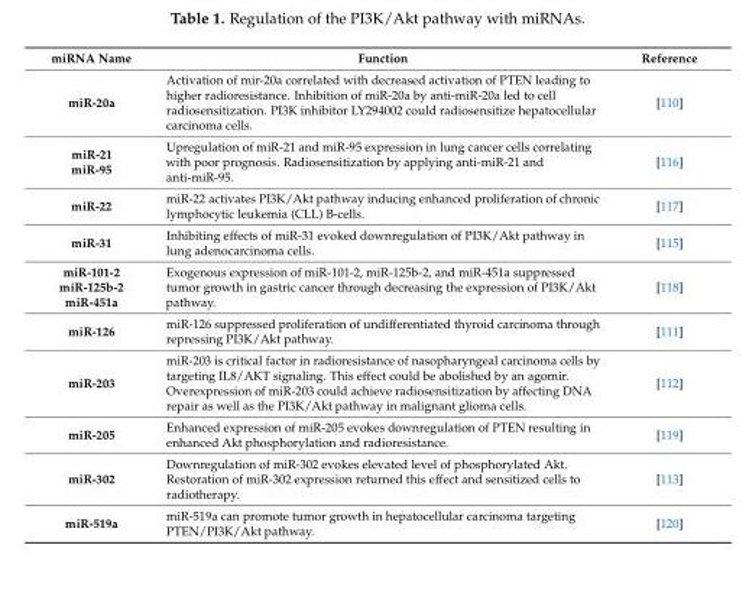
<table><thead><tr><td>miRNA Name</td><td>Function</td><td>Reference</td></tr></thead><tbody><tr><td>miR-20a</td><td>Activation of mir-20a correlated with decreased activation of PTEN leading to higher radioresistance. Inhibition of miR-20a by anti-miR-20a led to cell radiosensitization. PI3K inhibitor LY294002 could radiosensitize hepatocellular carcinoma cells.</td><td>[110]</td></tr><tr><td>miR-21 miR-95</td><td>Upregulation of miR-21 and miR-95 expression in lung cancer cells correlating with poor prognosis. Radiosensitization by applying anti-miR-21 and anti-miR-95.</td><td>[116]</td></tr><tr><td>miR-22</td><td>miR-22 activates PI3K/Akt pathway inducing enhanced proliferation of chronic lymphocytic leukemia (CLL) B-cells.</td><td>[117]</td></tr><tr><td>miR-31</td><td>Inhibiting effects of miR-31 evoked downregulation of PI3K/Akt pathway in lung adenocarcinoma cells.</td><td>[115]</td></tr><tr><td>miR-101-2 miR-125b-2 miR-451a</td><td>Exogenous expression of miR-101-2, miR-125b-2, and miR-451a suppressed tumor growth in gastric cancer through decreasing the expression of PI3K/Akt pathway.</td><td>[118]</td></tr><tr><td>miR-126</td><td>miR-126 suppressed proliferation of undifferentiated thyroid carcinoma through repressing PI3K/Akt pathway.</td><td>[111]</td></tr><tr><td>miR-203</td><td>miR-203 is critical factor in radioresistance of nasopharyngeal carcinoma cells by targeting IL8/AKT signaling. This effect could be abolished by an agomir. Overexpression of miR-203 could achieve radiosensitization by affecting DNA repair as well as the PI3K/Akt pathway in malignant glioma cells.</td><td>[112]</td></tr><tr><td>miR-205</td><td>Enhanced expression of miR-205 evokes downregulation of PTEN resulting in enhanced Akt phosphorylation and radioresistance.</td><td>[119]</td></tr><tr><td>miR-302</td><td>Downregulation of miR-302 evokes elevated level of phosphorylated Akt. Restoration of miR-302 expression returned this effect and sensitized cells to radiotherapy.</td><td>[113]</td></tr><tr><td>miR-519a</td><td>miR-519a can promote tumor growth in hepatocellular carcinoma targeting PTEN/PI3K/Akt pathway.</td><td>[120]</td></tr></tbody></table>